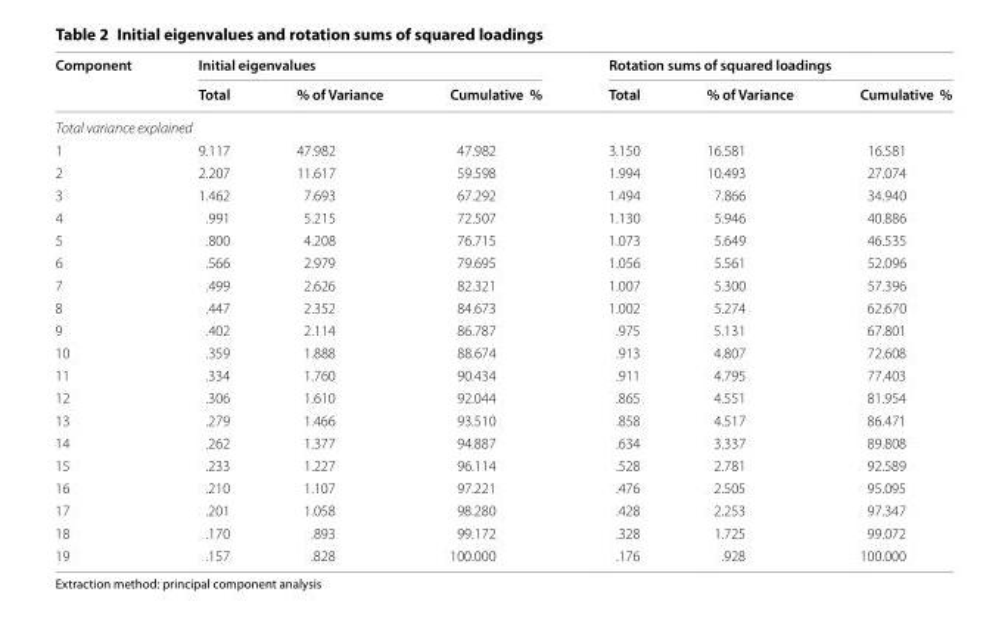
<table><thead><tr><td rowspan="2">Component</td><td colspan="3">Initial eigenvalues</td><td colspan="3">Rotation sums of squared loadings</td></tr><tr><td>Total</td><td>% of Variance</td><td>Cumulative %</td><td>Total</td><td>% of Variance</td><td>Cumulative %</td></tr></thead><tbody><tr><td colspan="7">Total variance explained</td></tr><tr><td>1</td><td>9.117</td><td>47.982</td><td>47.982</td><td>3.150</td><td>16.581</td><td>16.581</td></tr><tr><td>2</td><td>2.207</td><td>11.617</td><td>59.598</td><td>1.994</td><td>10.493</td><td>27.074</td></tr><tr><td>3</td><td>1.462</td><td>7.693</td><td>67.292</td><td>1.494</td><td>7.866</td><td>34.940</td></tr><tr><td>4</td><td>.991</td><td>5.215</td><td>72.507</td><td>1.130</td><td>5.946</td><td>40.886</td></tr><tr><td>5</td><td>.800</td><td>4.208</td><td>76.715</td><td>1.073</td><td>5.649</td><td>46.535</td></tr><tr><td>6</td><td>.566</td><td>2.979</td><td>79.695</td><td>1.056</td><td>5.561</td><td>52.096</td></tr><tr><td>7</td><td>.499</td><td>2.626</td><td>82.321</td><td>1.007</td><td>5.300</td><td>57.396</td></tr><tr><td>8</td><td>.447</td><td>2.352</td><td>84.673</td><td>1.002</td><td>5.274</td><td>62.670</td></tr><tr><td>9</td><td>.402</td><td>2.114</td><td>86.787</td><td>.975</td><td>5.131</td><td>67.801</td></tr><tr><td>10</td><td>.359</td><td>1.888</td><td>88.674</td><td>.913</td><td>4.807</td><td>72.608</td></tr><tr><td>11</td><td>.334</td><td>1.760</td><td>90.434</td><td>.911</td><td>4.795</td><td>77.403</td></tr><tr><td>12</td><td>.306</td><td>1.610</td><td>92.044</td><td>.865</td><td>4.551</td><td>81.954</td></tr><tr><td>13</td><td>.279</td><td>1.466</td><td>93.510</td><td>.858</td><td>4.517</td><td>86.471</td></tr><tr><td>14</td><td>.262</td><td>1.377</td><td>94.887</td><td>.634</td><td>3.337</td><td>89.808</td></tr><tr><td>15</td><td>.233</td><td>1.227</td><td>96.114</td><td>.528</td><td>2.781</td><td>92.589</td></tr><tr><td>16</td><td>.210</td><td>1.107</td><td>97.221</td><td>.476</td><td>2.505</td><td>95.095</td></tr><tr><td>17</td><td>.201</td><td>1.058</td><td>98.280</td><td>.428</td><td>2.253</td><td>97.347</td></tr><tr><td>18</td><td>.170</td><td>.893</td><td>99.172</td><td>.328</td><td>1.725</td><td>99.072</td></tr><tr><td>19</td><td>.157</td><td>.828</td><td>100.000</td><td>.176</td><td>.928</td><td>100.000</td></tr></tbody></table>